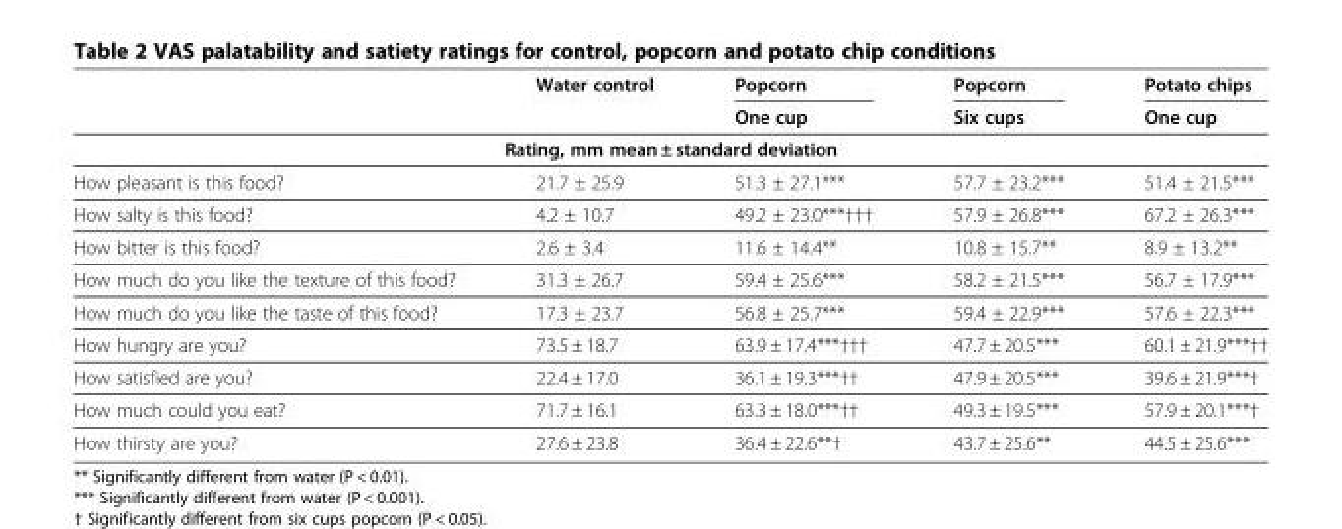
<table><thead><tr><td rowspan="2"></td><td rowspan="2">Water control</td><td rowspan="2">Popcorn One cup</td><td rowspan="2">Popcorn Six cups</td><td rowspan="2">Potato chips One cup</td></tr><tr></tr></thead><tbody><tr><td colspan="5">Rating, mm mean ± standard deviation</td></tr><tr><td>How pleasant is this food?</td><td>21.7 ± 25.9</td><td>51.3 ± 27.1***</td><td>57.7 ± 23.2***</td><td>51.4 ± 21.5***</td></tr><tr><td>How salty is this food?</td><td>4.2 ± 10.7</td><td>49.2 ± 23.0***†††</td><td>57.9 ± 26.8***</td><td>67.2 ± 26.3***</td></tr><tr><td>How bitter is this food?</td><td>2.6 ± 3.4</td><td>11.6 ± 14.4**</td><td>10.8 ± 15.7**</td><td>8.9 ± 13.2**</td></tr><tr><td>How much do you like the texture of this food?</td><td>31.3 ± 26.7</td><td>59.4 ± 25.6***</td><td>58.2 ± 21.5***</td><td>56.7 ± 17.9***</td></tr><tr><td>How much do you like the taste of this food?</td><td>17.3 ± 23.7</td><td>56.8 ± 25.7***</td><td>59.4 ± 22.9***</td><td>57.6 ± 22.3***</td></tr><tr><td>How hungry are you?</td><td>73.5 ± 18.7</td><td>63.9 ± 17.4***†††</td><td>47.7 ± 20.5***</td><td>60.1 ± 21.9***††</td></tr><tr><td>How satisfied are you?</td><td>22.4 ± 17.0</td><td>36.1 ± 19.3***††</td><td>47.9 ± 20.5***</td><td>39.6 ± 21.9***†</td></tr><tr><td>How much could you eat?</td><td>71.7 ± 16.1</td><td>63.3 ± 18.0***††</td><td>49.3 ± 19.5***</td><td>57.9 ± 20.1***†</td></tr><tr><td>How thirsty are you?</td><td>27.6 ± 23.8</td><td>36.4 ± 22.6**†</td><td>43.7 ± 25.6**</td><td>44.5 ± 25.6***</td></tr></tbody></table>